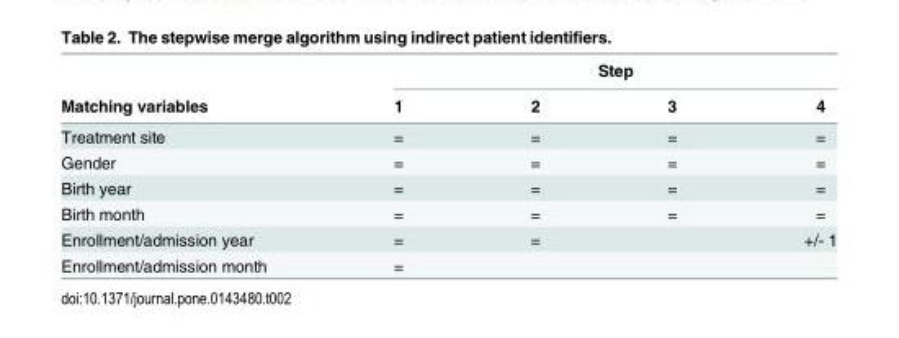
<table><thead><tr><td rowspan="2">Matching variables</td><td colspan="4">Step</td></tr><tr><td>1</td><td>2</td><td>3</td><td>4</td></tr></thead><tbody><tr><td>Treatment site</td><td>=</td><td>=</td><td>=</td><td>=</td></tr><tr><td>Gender</td><td>=</td><td>=</td><td>=</td><td>=</td></tr><tr><td>Birth year</td><td>=</td><td>=</td><td>=</td><td>=</td></tr><tr><td>Birth month</td><td>=</td><td>=</td><td>=</td><td>=</td></tr><tr><td>Enrollment/admission year</td><td>=</td><td>=</td><td></td><td>+/- 1</td></tr><tr><td>Enrollment/admission month</td><td>=</td><td></td><td></td><td></td></tr></tbody></table>